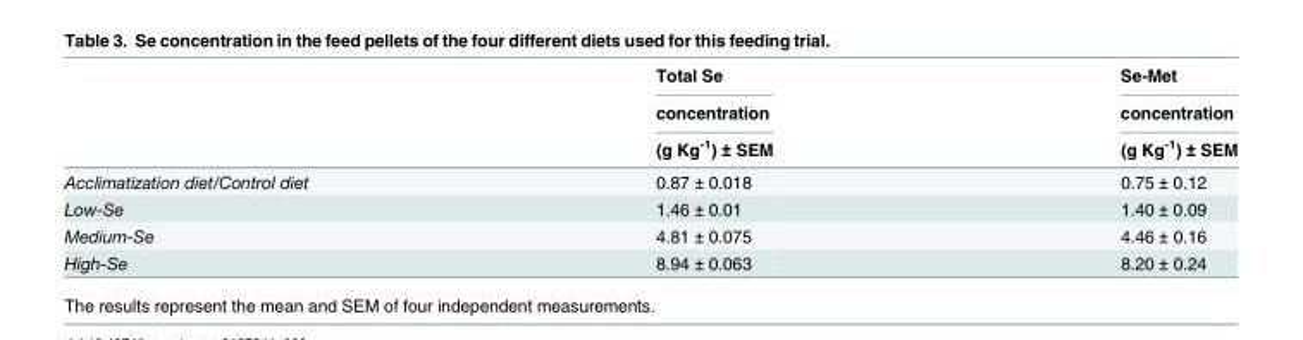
<table><thead><tr><td rowspan="3"></td><td rowspan="3">Total Se concentration (g Kg<sup>-1</sup>) ± SEM</td><td rowspan="3">Se-Met concentration (g Kg<sup>-1</sup>) ± SEM</td></tr><tr></tr><tr></tr></thead><tbody><tr><td>Acclimatization diet/Control diet</td><td>0.87 ± 0.018</td><td>0.75 ± 0.12</td></tr><tr><td>Low-Se</td><td>1.46 ± 0.01</td><td>1.40 ± 0.09</td></tr><tr><td>Medium-Se</td><td>4.81 ± 0.075</td><td>4.46 ± 0.16</td></tr><tr><td>High-Se</td><td>8.94 ± 0.063</td><td>8.20 ± 0.24</td></tr></tbody></table>